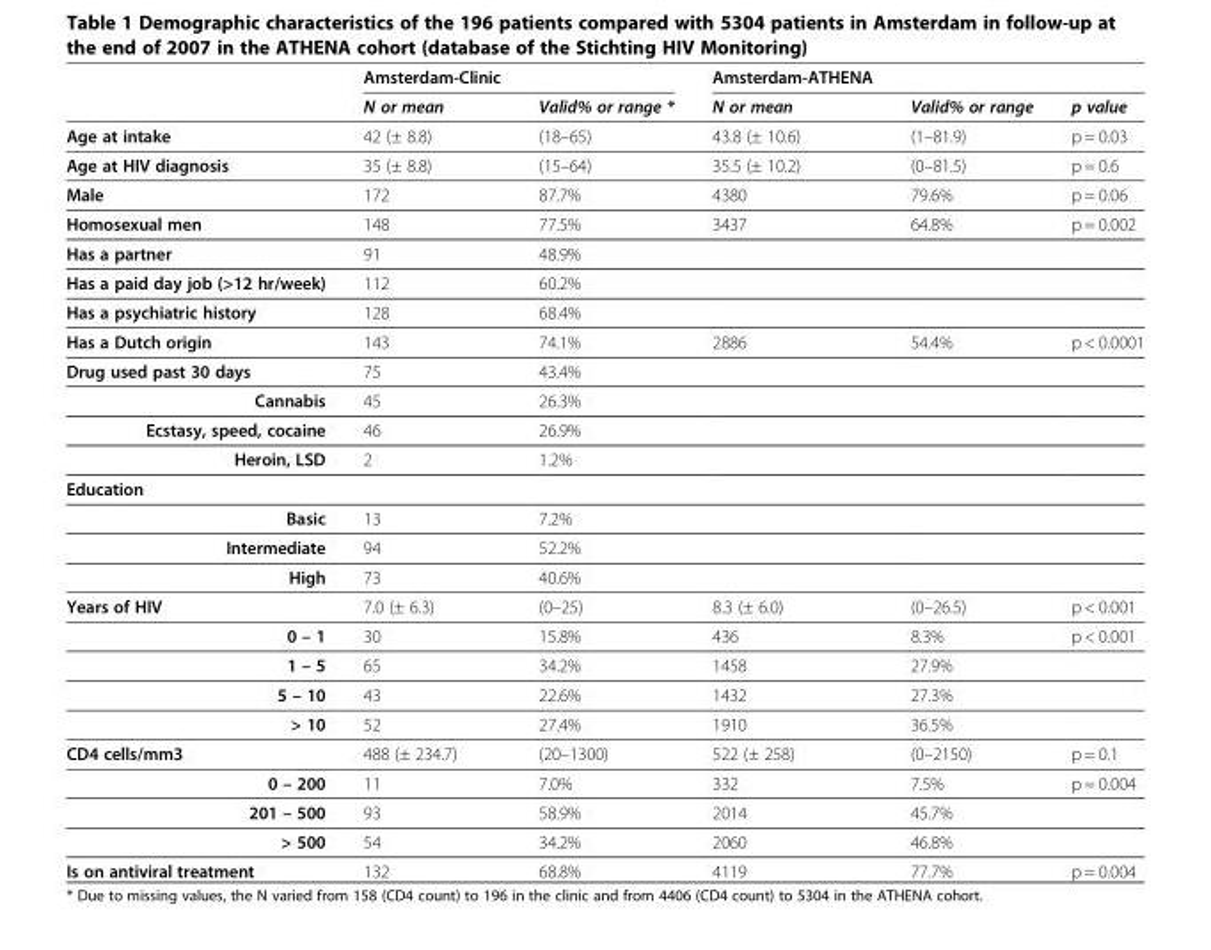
<table><thead><tr><td rowspan="2"></td><td rowspan="2">Amsterdam-Clinic N or mean</td><td rowspan="2">Valid% or range *</td><td rowspan="2">Amsterdam-ATHENA N or mean</td><td rowspan="2">Valid% or range</td><td rowspan="2">p value</td></tr><tr></tr></thead><tbody><tr><td>Age at intake</td><td>42 (± 8.8)</td><td>(18–65)</td><td>43.8 (± 10.6)</td><td>(1–81.9)</td><td>p = 0.03</td></tr><tr><td>Age at HIV diagnosis</td><td>35 (± 8.8)</td><td>(15–64)</td><td>35.5 (± 10.2)</td><td>(0–81.5)</td><td>p = 0.6</td></tr><tr><td>Male</td><td>172</td><td>87.7%</td><td>4380</td><td>79.6%</td><td>p = 0.06</td></tr><tr><td>Homosexual men</td><td>148</td><td>77.5%</td><td>3437</td><td>64.8%</td><td>p = 0.002</td></tr><tr><td>Has a partner</td><td>91</td><td>48.9%</td><td></td><td></td><td></td></tr><tr><td>Has a paid day job (&gt;12 hr/week)</td><td>112</td><td>60.2%</td><td></td><td></td><td></td></tr><tr><td>Has a psychiatric history</td><td>128</td><td>68.4%</td><td></td><td></td><td></td></tr><tr><td>Has a Dutch origin</td><td>143</td><td>74.1%</td><td>2886</td><td>54.4%</td><td>p &lt; 0.0001</td></tr><tr><td>Drug used past 30 days</td><td>75</td><td>43.4%</td><td></td><td></td><td></td></tr><tr><td>Cannabis</td><td>45</td><td>26.3%</td><td></td><td></td><td></td></tr><tr><td>Ecstasy, speed, cocaine</td><td>46</td><td>26.9%</td><td></td><td></td><td></td></tr><tr><td>Heroin, LSD</td><td>2</td><td>1.2%</td><td></td><td></td><td></td></tr><tr><td colspan="6">Education</td></tr><tr><td>Basic</td><td>13</td><td>7.2%</td><td></td><td></td><td></td></tr><tr><td>Intermediate</td><td>94</td><td>52.2%</td><td></td><td></td><td></td></tr><tr><td>High</td><td>73</td><td>40.6%</td><td></td><td></td><td></td></tr><tr><td>Years of HIV</td><td>7.0 (± 6.3)</td><td>(0–25)</td><td>8.3 (± 6.0)</td><td>(0–26.5)</td><td>p &lt; 0.001</td></tr><tr><td>0 – 1</td><td>30</td><td>15.8%</td><td>436</td><td>8.3%</td><td>p &lt; 0.001</td></tr><tr><td>1 – 5</td><td>65</td><td>34.2%</td><td>1458</td><td>27.9%</td><td></td></tr><tr><td>5 – 10</td><td>43</td><td>22.6%</td><td>1432</td><td>27.3%</td><td></td></tr><tr><td>&gt; 10</td><td>52</td><td>27.4%</td><td>1910</td><td>36.5%</td><td></td></tr><tr><td>CD4 cells/mm3</td><td>488 (± 234.7)</td><td>(20–1300)</td><td>522 (± 258)</td><td>(0–2150)</td><td>p = 0.1</td></tr><tr><td>0 – 200</td><td>11</td><td>7.0%</td><td>332</td><td>7.5%</td><td>p = 0.004</td></tr><tr><td>201 – 500</td><td>93</td><td>58.9%</td><td>2014</td><td>45.7%</td><td></td></tr><tr><td>&gt; 500</td><td>54</td><td>34.2%</td><td>2060</td><td>46.8%</td><td></td></tr><tr><td>Is on antiviral treatment</td><td>132</td><td>68.8%</td><td>4119</td><td>77.7%</td><td>p = 0.004</td></tr></tbody></table>